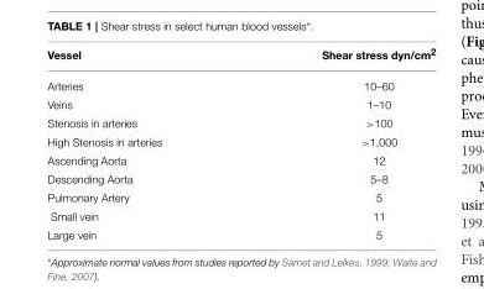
<table><thead><tr><td>Vessel</td><td>Shear stress dyn/cm<sup>2</sup></td></tr></thead><tbody><tr><td>Arteries</td><td>10–60</td></tr><tr><td>Veins</td><td>1–10</td></tr><tr><td>Stenosis in arteries</td><td>&gt;100</td></tr><tr><td>High Stenosis in arteries</td><td>&gt;1,000</td></tr><tr><td>Ascending Aorta</td><td>12</td></tr><tr><td>Descending Aorta</td><td>5–8</td></tr><tr><td>Pulmonary Artery</td><td>5</td></tr><tr><td>Small vein</td><td>11</td></tr><tr><td>Large vein</td><td>5</td></tr></tbody></table>